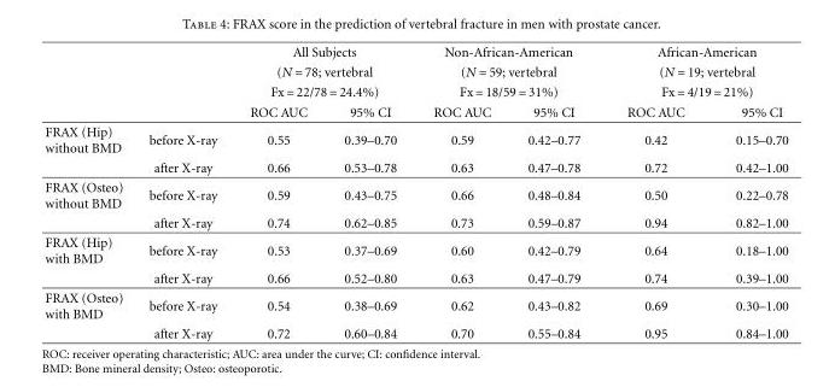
<table><thead><tr><td rowspan="4"></td><td rowspan="4"></td><td rowspan="3" colspan="2">All Subjects (N = 78; vertebral Fx = 22/78 = 24.4%)</td><td rowspan="3" colspan="2">Non-African-American (N = 59; vertebral Fx = 18/59 = 31%)</td><td rowspan="3" colspan="2">African-American (N = 19; vertebral Fx = 4/19 = 21%)</td></tr><tr></tr><tr></tr><tr><td>ROC AUC</td><td>95% CI</td><td>ROC AUC</td><td>95% CI</td><td>ROC AUC</td><td>95% CI</td></tr></thead><tbody><tr><td rowspan="2">FRAX (Hip) without BMD</td><td>before X-ray</td><td>0.55</td><td>0.39–0.70</td><td>0.59</td><td>0.42–0.77</td><td>0.42</td><td>0.15–0.70</td></tr><tr><td>after X-ray</td><td>0.66</td><td>0.53–0.78</td><td>0.63</td><td>0.47–0.78</td><td>0.72</td><td>0.42–1.00</td></tr><tr><td rowspan="2">FRAX (Osteo) without BMD</td><td>before X-ray</td><td>0.59</td><td>0.43–0.75</td><td>0.66</td><td>0.48–0.84</td><td>0.50</td><td>0.22–0.78</td></tr><tr><td>after X-ray</td><td>0.74</td><td>0.62–0.85</td><td>0.73</td><td>0.59–0.87</td><td>0.94</td><td>0.82–1.00</td></tr><tr><td rowspan="2">FRAX (Hip) with BMD</td><td>before X-ray</td><td>0.53</td><td>0.37–0.69</td><td>0.60</td><td>0.42–0.79</td><td>0.64</td><td>0.18–1.00</td></tr><tr><td>after X-ray</td><td>0.66</td><td>0.52–0.80</td><td>0.63</td><td>0.47–0.79</td><td>0.74</td><td>0.39–1.00</td></tr><tr><td rowspan="2">FRAX (Osteo) with BMD</td><td>before X-ray</td><td>0.54</td><td>0.38–0.69</td><td>0.62</td><td>0.43–0.82</td><td>0.69</td><td>0.30–1.00</td></tr><tr><td>after X-ray</td><td>0.72</td><td>0.60–0.84</td><td>0.70</td><td>0.55–0.84</td><td>0.95</td><td>0.84–1.00</td></tr></tbody></table>